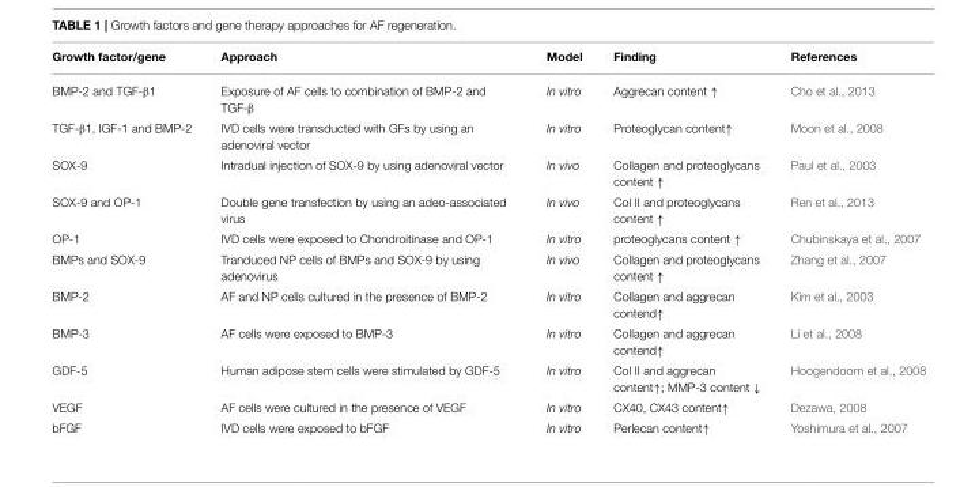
<table><thead><tr><td>Growth factor/gene</td><td>Approach</td><td>Model</td><td>Finding</td><td>References</td></tr></thead><tbody><tr><td>BMP-2 and TGF-β1</td><td>Exposure of AF cells to combination of BMP-2 and TGF-β</td><td>In vitro</td><td>Aggrecan content ↑</td><td>Cho et al., 2013</td></tr><tr><td>TGF-β1, IGF-1 and BMP-2</td><td>IVD cells were transducted with GFs by using an adenoviral vector</td><td>In vitro</td><td>Proteoglycan content↑</td><td>Moon et al., 2008</td></tr><tr><td>SOX-9</td><td>Intradual injection of SOX-9 by using adenoviral vector</td><td>In vivo</td><td>Collagen and proteoglycans content ↑</td><td>Paul et al., 2003</td></tr><tr><td>SOX-9 and OP-1</td><td>Double gene transfection by using an adeo-associated virus</td><td>In vivo</td><td>Col II and proteoglycans content ↑</td><td>Ren et al., 2013</td></tr><tr><td>OP-1</td><td>IVD cells were exposed to Chondroitinase and OP-1</td><td>In vitro</td><td>proteoglycans content ↑</td><td>Chubinskaya et al., 2007</td></tr><tr><td>BMPs and SOX-9</td><td>Tranduced NP cells of BMPs and SOX-9 by using adenovirus</td><td>In vivo</td><td>Collagen and proteoglycans content ↑</td><td>Zhang et al., 2007</td></tr><tr><td>BMP-2</td><td>AF and NP cells cultured in the presence of BMP-2</td><td>In vitro</td><td>Collagen and aggrecan contend↑</td><td>Kim et al., 2003</td></tr><tr><td>BMP-3</td><td>AF cells were exposed to BMP-3</td><td>In vitro</td><td>Collagen and aggrecan contend↑</td><td>Li et al., 2008</td></tr><tr><td>GDF-5</td><td>Human adipose stem cells were stimulated by GDF-5</td><td>In vitro</td><td>Col II and aggrecan content↑; MMP-3 content ↓</td><td>Hoogendoorn et al., 2008</td></tr><tr><td>VEGF</td><td>AF cells were cultured in the presence of VEGF</td><td>In vitro</td><td>CX40, CX43 content↑</td><td>Dezawa, 2008</td></tr><tr><td>bFGF</td><td>IVD cells were exposed to bFGF</td><td>In vitro</td><td>Perlecan content↑</td><td>Yoshimura et al., 2007</td></tr></tbody></table>